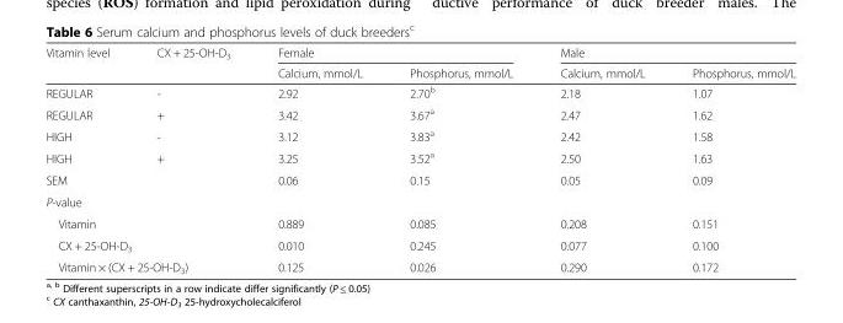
<table><thead><tr><td rowspan="2">Vitamin level</td><td rowspan="2">CX + 25-OH-D<sub>3</sub></td><td colspan="2">Female</td><td colspan="2">Male</td></tr><tr><td>Calcium, mmol/L</td><td>Phosphorus, mmol/L</td><td>Calcium, mmol/L</td><td>Phosphorus, mmol/L</td></tr></thead><tbody><tr><td>REGULAR</td><td>-</td><td>2.92</td><td>2.70<sup>b</sup></td><td>2.18</td><td>1.07</td></tr><tr><td>REGULAR</td><td>+</td><td>3.42</td><td>3.67<sup>a</sup></td><td>2.47</td><td>1.62</td></tr><tr><td>HIGH</td><td>-</td><td>3.12</td><td>3.83<sup>a</sup></td><td>2.42</td><td>1.58</td></tr><tr><td>HIGH</td><td>+</td><td>3.25</td><td>3.52<sup>a</sup></td><td>2.50</td><td>1.63</td></tr><tr><td>SEM</td><td></td><td>0.06</td><td>0.15</td><td>0.05</td><td>0.09</td></tr><tr><td colspan="6">P-value</td></tr><tr><td colspan="2">Vitamin</td><td>0.889</td><td>0.085</td><td>0.208</td><td>0.151</td></tr><tr><td colspan="2">CX + 25-OH-D<sub>3</sub></td><td>0.010</td><td>0.245</td><td>0.077</td><td>0.100</td></tr><tr><td colspan="2">Vitamin × (CX + 25-OH-D<sub>3</sub>)</td><td>0.125</td><td>0.026</td><td>0.290</td><td>0.172</td></tr></tbody></table>